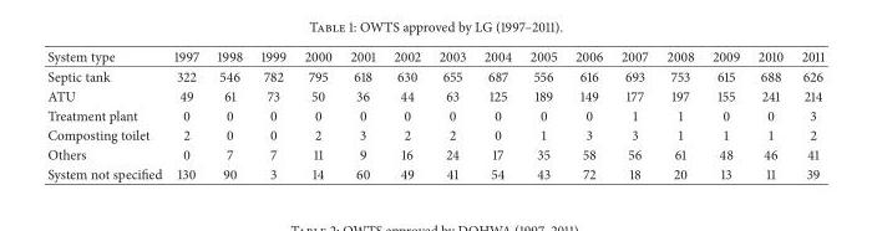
<table><thead><tr><td>System type</td><td>1997</td><td>1998</td><td>1999</td><td>2000</td><td>2001</td><td>2002</td><td>2003</td><td>2004</td><td>2005</td><td>2006</td><td>2007</td><td>2008</td><td>2009</td><td>2010</td><td>2011</td></tr></thead><tbody><tr><td>Septic tank</td><td>322</td><td>546</td><td>782</td><td>795</td><td>618</td><td>630</td><td>655</td><td>687</td><td>556</td><td>616</td><td>693</td><td>753</td><td>615</td><td>688</td><td>626</td></tr><tr><td>ATU</td><td>49</td><td>61</td><td>73</td><td>50</td><td>36</td><td>44</td><td>63</td><td>125</td><td>189</td><td>149</td><td>177</td><td>197</td><td>155</td><td>241</td><td>214</td></tr><tr><td>Treatment plant</td><td>0</td><td>0</td><td>0</td><td>0</td><td>0</td><td>0</td><td>0</td><td>0</td><td>0</td><td>0</td><td>1</td><td>1</td><td>0</td><td>0</td><td>3</td></tr><tr><td>Composting toilet</td><td>2</td><td>0</td><td>0</td><td>2</td><td>3</td><td>2</td><td>2</td><td>0</td><td>1</td><td>3</td><td>3</td><td>1</td><td>1</td><td>1</td><td>2</td></tr><tr><td>Others</td><td>0</td><td>7</td><td>7</td><td>11</td><td>9</td><td>16</td><td>24</td><td>17</td><td>35</td><td>58</td><td>56</td><td>61</td><td>48</td><td>46</td><td>41</td></tr><tr><td>System not specified</td><td>130</td><td>90</td><td>3</td><td>14</td><td>60</td><td>49</td><td>41</td><td>54</td><td>43</td><td>72</td><td>18</td><td>20</td><td>13</td><td>11</td><td>39</td></tr></tbody></table>